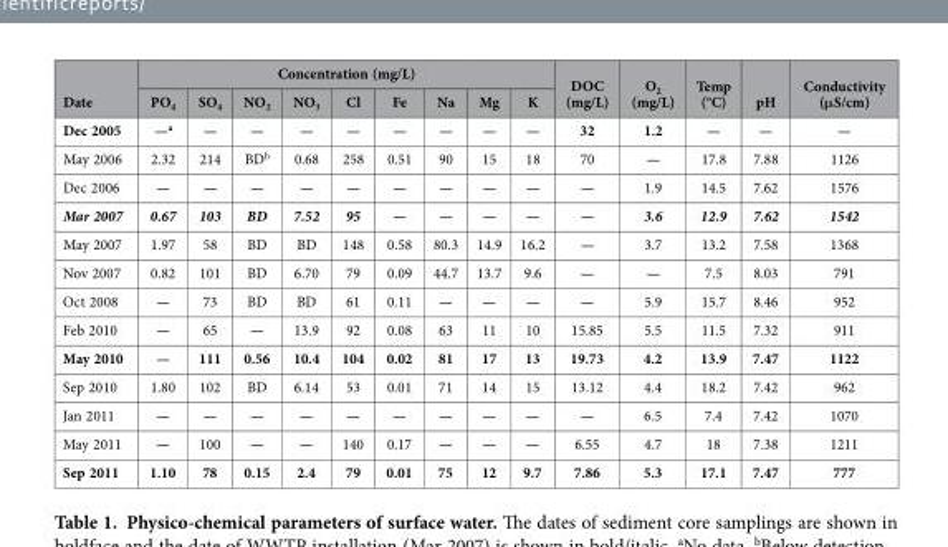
<table><thead><tr><td rowspan="2">Date</td><td colspan="9">Concentration (mg/L)</td><td rowspan="2">DOC (mg/L)</td><td rowspan="2">O<sub>2</sub> (mg/L)</td><td rowspan="2">Temp (°C)</td><td rowspan="2">pH</td><td rowspan="2">Conductivity (μS/cm)</td></tr><tr><td>PO<sub>4</sub></td><td>SO<sub>4</sub></td><td>NO<sub>2</sub></td><td>NO<sub>3</sub></td><td>Cl</td><td>Fe</td><td>Na</td><td>Mg</td><td>K</td></tr></thead><tbody><tr><td>Dec 2005</td><td>—a</td><td>—</td><td>—</td><td>—</td><td>—</td><td>—</td><td>—</td><td>—</td><td>—</td><td>32</td><td>1.2</td><td>—</td><td>—</td><td>—</td></tr><tr><td>May 2006</td><td>2.32</td><td>214</td><td>BD<sup>b</sup></td><td>0.68</td><td>258</td><td>0.51</td><td>90</td><td>15</td><td>18</td><td>70</td><td>—</td><td>17.8</td><td>7.88</td><td>1126</td></tr><tr><td>Dec 2006</td><td>—</td><td>—</td><td>—</td><td>—</td><td>—</td><td>—</td><td>—</td><td>—</td><td>—</td><td>—</td><td>1.9</td><td>14.5</td><td>7.62</td><td>1576</td></tr><tr><td>Mar 2007</td><td>0.67</td><td>103</td><td>BD</td><td>7.52</td><td>95</td><td>—</td><td>—</td><td>—</td><td>—</td><td>—</td><td>3.6</td><td>12.9</td><td>7.62</td><td>1542</td></tr><tr><td>May 2007</td><td>1.97</td><td>58</td><td>BD</td><td>BD</td><td>148</td><td>0.58</td><td>80.3</td><td>14.9</td><td>16.2</td><td>—</td><td>3.7</td><td>13.2</td><td>7.58</td><td>1368</td></tr><tr><td>Nov 2007</td><td>0.82</td><td>101</td><td>BD</td><td>6.70</td><td>79</td><td>0.09</td><td>44.7</td><td>13.7</td><td>9.6</td><td>—</td><td>—</td><td>7.5</td><td>8.03</td><td>791</td></tr><tr><td>Oct 2008</td><td>—</td><td>73</td><td>BD</td><td>BD</td><td>61</td><td>0.11</td><td>—</td><td>—</td><td>—</td><td>—</td><td>5.9</td><td>15.7</td><td>8.46</td><td>952</td></tr><tr><td>Feb 2010</td><td>—</td><td>65</td><td>—</td><td>13.9</td><td>92</td><td>0.08</td><td>63</td><td>11</td><td>10</td><td>15.85</td><td>5.5</td><td>11.5</td><td>7.32</td><td>911</td></tr><tr><td>May 2010</td><td>—</td><td>111</td><td>0.56</td><td>10.4</td><td>104</td><td>0.02</td><td>81</td><td>17</td><td>13</td><td>19.73</td><td>4.2</td><td>13.9</td><td>7.47</td><td>1122</td></tr><tr><td>Sep 2010</td><td>1.80</td><td>102</td><td>BD</td><td>6.14</td><td>53</td><td>0.01</td><td>71</td><td>14</td><td>15</td><td>13.12</td><td>4.4</td><td>18.2</td><td>7.42</td><td>962</td></tr><tr><td>Jan 2011</td><td>—</td><td>—</td><td>—</td><td>—</td><td>—</td><td>—</td><td>—</td><td>—</td><td>—</td><td>—</td><td>6.5</td><td>7.4</td><td>7.42</td><td>1070</td></tr><tr><td>May 2011</td><td>—</td><td>100</td><td>—</td><td>—</td><td>140</td><td>0.17</td><td>—</td><td>—</td><td>—</td><td>6.55</td><td>4.7</td><td>18</td><td>7.38</td><td>1211</td></tr><tr><td>Sep 2011</td><td>1.10</td><td>78</td><td>0.15</td><td>2.4</td><td>79</td><td>0.01</td><td>75</td><td>12</td><td>9.7</td><td>7.86</td><td>5.3</td><td>17.1</td><td>7.47</td><td>777</td></tr></tbody></table>